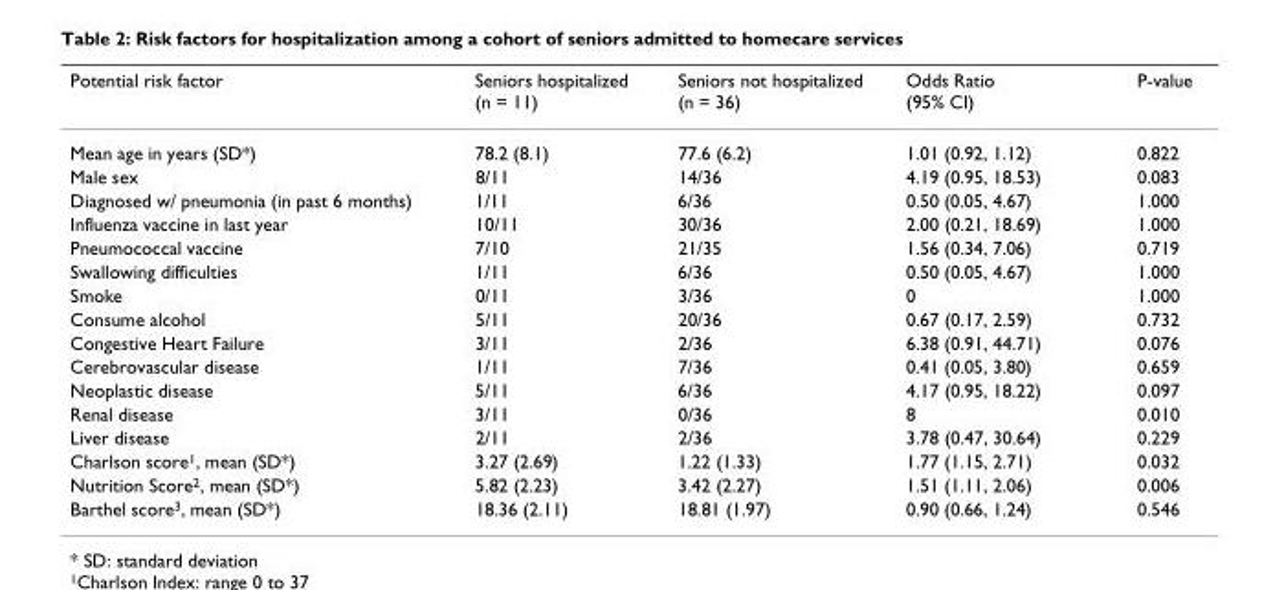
<table><thead><tr><td>Potential risk factor</td><td>Seniors hospitalized (n = 11)</td><td>Seniors not hospitalized (n = 36)</td><td>Odds Ratio (95% CI)</td><td>P-value</td></tr></thead><tbody><tr><td>Mean age in years (SD*)</td><td>78.2 (8.1)</td><td>77.6 (6.2)</td><td>1.01 (0.92, 1.12)</td><td>0.822</td></tr><tr><td>Male sex</td><td>8/11</td><td>14/36</td><td>4.19 (0.95, 18.53)</td><td>0.083</td></tr><tr><td>Diagnosed w/ pneumonia (in past 6 months)</td><td>1/11</td><td>6/36</td><td>0.50 (0.05, 4.67)</td><td>1.000</td></tr><tr><td>Influenza vaccine in last year</td><td>10/11</td><td>30/36</td><td>2.00 (0.21, 18.69)</td><td>1.000</td></tr><tr><td>Pneumococcal vaccine</td><td>7/10</td><td>21/35</td><td>1.56 (0.34, 7.06)</td><td>0.719</td></tr><tr><td>Swallowing difficulties</td><td>1/11</td><td>6/36</td><td>0.50 (0.05, 4.67)</td><td>1.000</td></tr><tr><td>Smoke</td><td>0/11</td><td>3/36</td><td>0</td><td>1.000</td></tr><tr><td>Consume alcohol</td><td>5/11</td><td>20/36</td><td>0.67 (0.17, 2.59)</td><td>0.732</td></tr><tr><td>Congestive Heart Failure</td><td>3/11</td><td>2/36</td><td>6.38 (0.91, 44.71)</td><td>0.076</td></tr><tr><td>Cerebrovascular disease</td><td>1/11</td><td>7/36</td><td>0.41 (0.05, 3.80)</td><td>0.659</td></tr><tr><td>Neoplastic disease</td><td>5/11</td><td>6/36</td><td>4.17 (0.95, 18.22)</td><td>0.097</td></tr><tr><td>Renal disease</td><td>3/11</td><td>0/36</td><td>8</td><td>0.010</td></tr><tr><td>Liver disease</td><td>2/11</td><td>2/36</td><td>3.78 (0.47, 30.64)</td><td>0.229</td></tr><tr><td>Charlson score<sup>1</sup>, mean (SD*)</td><td>3.27 (2.69)</td><td>1.22 (1.33)</td><td>1.77 (1.15, 2.71)</td><td>0.032</td></tr><tr><td>Nutrition Score<sup>2</sup>, mean (SD*)</td><td>5.82 (2.23)</td><td>3.42 (2.27)</td><td>1.51 (1.11, 2.06)</td><td>0.006</td></tr><tr><td>Barthel score<sup>3</sup>, mean (SD*)</td><td>18.36 (2.11)</td><td>18.81 (1.97)</td><td>0.90 (0.66, 1.24)</td><td>0.546</td></tr></tbody></table>